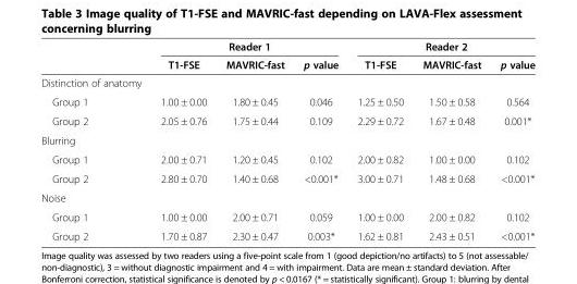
<table><thead><tr><td rowspan="2"></td><td colspan="3">Reader 1</td><td colspan="3">Reader 2</td></tr><tr><td>T1-FSE</td><td>MAVRIC-fast</td><td>p value</td><td>T1-FSE</td><td>MAVRIC-fast</td><td>p value</td></tr></thead><tbody><tr><td colspan="7">Distinction of anatomy</td></tr><tr><td>Group 1</td><td>1.00 ± 0.00</td><td>1.80 ± 0.45</td><td>0.046</td><td>1.25 ± 0.50</td><td>1.50 ± 0.58</td><td>0.564</td></tr><tr><td>Group 2</td><td>2.05 ± 0.76</td><td>1.75 ± 0.44</td><td>0.109</td><td>2.29 ± 0.72</td><td>1.67 ± 0.48</td><td>0.001*</td></tr><tr><td colspan="7">Blurring</td></tr><tr><td>Group 1</td><td>2.00 ± 0.71</td><td>1.20 ± 0.45</td><td>0.102</td><td>2.00 ± 0.82</td><td>1.00 ± 0.00</td><td>0.102</td></tr><tr><td>Group 2</td><td>2.80 ± 0.70</td><td>1.40 ± 0.68</td><td>&lt;0.001*</td><td>3.00 ± 0.71</td><td>1.48 ± 0.68</td><td>&lt;0.001*</td></tr><tr><td colspan="7">Noise</td></tr><tr><td>Group 1</td><td>1.00 ± 0.00</td><td>2.00 ± 0.71</td><td>0.059</td><td>1.00 ± 0.00</td><td>2.00 ± 0.82</td><td>0.102</td></tr><tr><td>Group 2</td><td>1.70 ± 0.87</td><td>2.30 ± 0.47</td><td>0.003*</td><td>1.62 ± 0.81</td><td>2.43 ± 0.51</td><td>&lt;0.001*</td></tr></tbody></table>